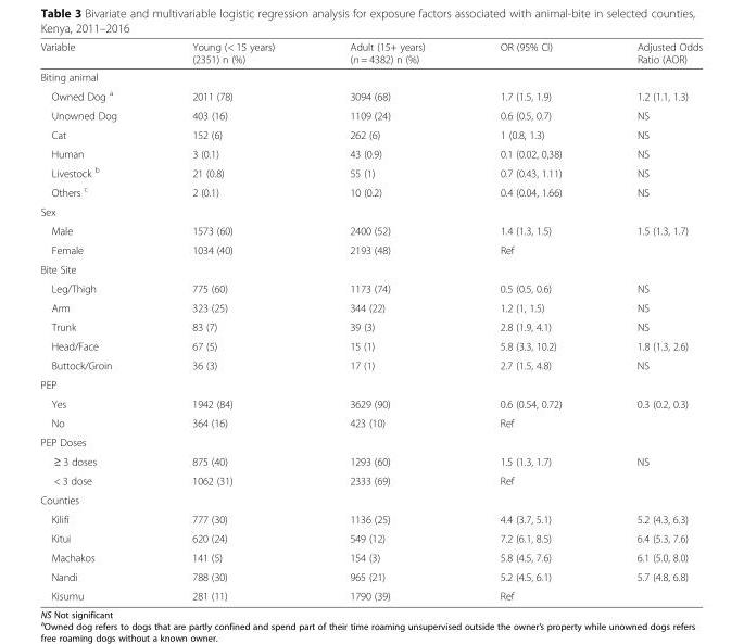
<table><thead><tr><td>Variable</td><td>Young (&lt; 15 years) (2351) n (%)</td><td>Adult (15+ years) (n = 4382) n (%)</td><td>OR (95% CI)</td><td>Adjusted Odds Ratio (AOR)</td></tr></thead><tbody><tr><td colspan="5">Biting animal</td></tr><tr><td>Owned Dog <sup>a</sup></td><td>2011 (78)</td><td>3094 (68)</td><td>1.7 (1.5, 1.9)</td><td>1.2 (1.1, 1.3)</td></tr><tr><td>Unowned Dog</td><td>403 (16)</td><td>1109 (24)</td><td>0.6 (0.5, 0.7)</td><td>NS</td></tr><tr><td>Cat</td><td>152 (6)</td><td>262 (6)</td><td>1 (0.8, 1.3)</td><td>NS</td></tr><tr><td>Human</td><td>3 (0.1)</td><td>43 (0.9)</td><td>0.1 (0.02, 0,38)</td><td>NS</td></tr><tr><td>Livestock <sup>b</sup></td><td>21 (0.8)</td><td>55 (1)</td><td>0.7 (0.43, 1.11)</td><td>NS</td></tr><tr><td>Others <sup>c</sup></td><td>2 (0.1)</td><td>10 (0.2)</td><td>0.4 (0.04, 1.66)</td><td>NS</td></tr><tr><td colspan="5">Sex</td></tr><tr><td>Male</td><td>1573 (60)</td><td>2400 (52)</td><td>1.4 (1.3, 1.5)</td><td>1.5 (1.3, 1.7)</td></tr><tr><td>Female</td><td>1034 (40)</td><td>2193 (48)</td><td>Ref</td><td></td></tr><tr><td colspan="5">Bite Site</td></tr><tr><td>Leg/Thigh</td><td>775 (60)</td><td>1173 (74)</td><td>0.5 (0.5, 0.6)</td><td>NS</td></tr><tr><td>Arm</td><td>323 (25)</td><td>344 (22)</td><td>1.2 (1, 1.5)</td><td>NS</td></tr><tr><td>Trunk</td><td>83 (7)</td><td>39 (3)</td><td>2.8 (1.9, 4.1)</td><td>NS</td></tr><tr><td>Head/Face</td><td>67 (5)</td><td>15 (1)</td><td>5.8 (3.3, 10.2)</td><td>1.8 (1.3, 2.6)</td></tr><tr><td>Buttock/Groin</td><td>36 (3)</td><td>17 (1)</td><td>2.7 (1.5, 4.8)</td><td>NS</td></tr><tr><td colspan="5">PEP</td></tr><tr><td>Yes</td><td>1942 (84)</td><td>3629 (90)</td><td>0.6 (0.54, 0.72)</td><td>0.3 (0.2, 0.3)</td></tr><tr><td>No</td><td>364 (16)</td><td>423 (10)</td><td>Ref</td><td></td></tr><tr><td colspan="5">PEP Doses</td></tr><tr><td>≥ 3 doses</td><td>875 (40)</td><td>1293 (60)</td><td>1.5 (1.3, 1.7)</td><td>NS</td></tr><tr><td>&lt; 3 dose</td><td>1062 (31)</td><td>2333 (69)</td><td>Ref</td><td></td></tr><tr><td colspan="5">Counties</td></tr><tr><td>Kilifi</td><td>777 (30)</td><td>1136 (25)</td><td>4.4 (3.7, 5.1)</td><td>5.2 (4.3, 6.3)</td></tr><tr><td>Kitui</td><td>620 (24)</td><td>549 (12)</td><td>7.2 (6.1, 8.5)</td><td>6.4 (5.3, 7.6)</td></tr><tr><td>Machakos</td><td>141 (5)</td><td>154 (3)</td><td>5.8 (4.5, 7.6)</td><td>6.1 (5.0, 8.0)</td></tr><tr><td>Nandi</td><td>788 (30)</td><td>965 (21)</td><td>5.2 (4.5, 6.1)</td><td>5.7 (4.8, 6.8)</td></tr><tr><td>Kisumu</td><td>281 (11)</td><td>1790 (39)</td><td>Ref</td><td></td></tr></tbody></table>